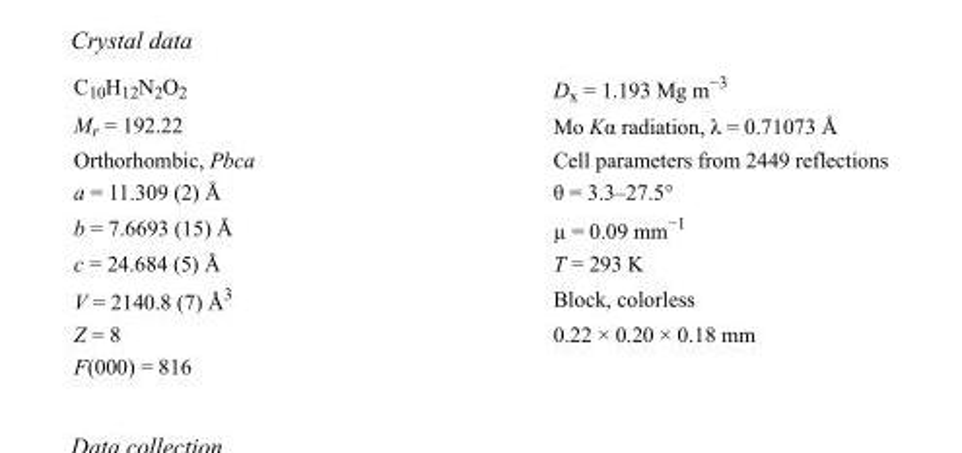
<table><tbody><tr><td>C<sub>10</sub>H<sub>12</sub>N<sub>2</sub>O<sub>2</sub></td><td>D<sub>x</sub> = 1.193 Mg m<sup>−3</sup></td></tr><tr><td>M<sub>r</sub> = 192.22</td><td>Mo Kα radiation, λ = 0.71073 Å</td></tr><tr><td>Orthorhombic, Pbca</td><td>Cell parameters from 2449 reflections</td></tr><tr><td>a = 11.309 (2) Å</td><td>θ = 3.3–27.5°</td></tr><tr><td>b = 7.6693 (15) Å</td><td>µ = 0.09 mm<sup>−1</sup></td></tr><tr><td>c = 24.684 (5) Å</td><td>T = 293 K</td></tr><tr><td>V = 2140.8 (7) Å<sup>3</sup></td><td>Block, colorless</td></tr><tr><td>Z = 8</td><td>0.22 × 0.20 × 0.18 mm</td></tr><tr><td>F(000) = 816</td><td></td></tr></tbody></table>